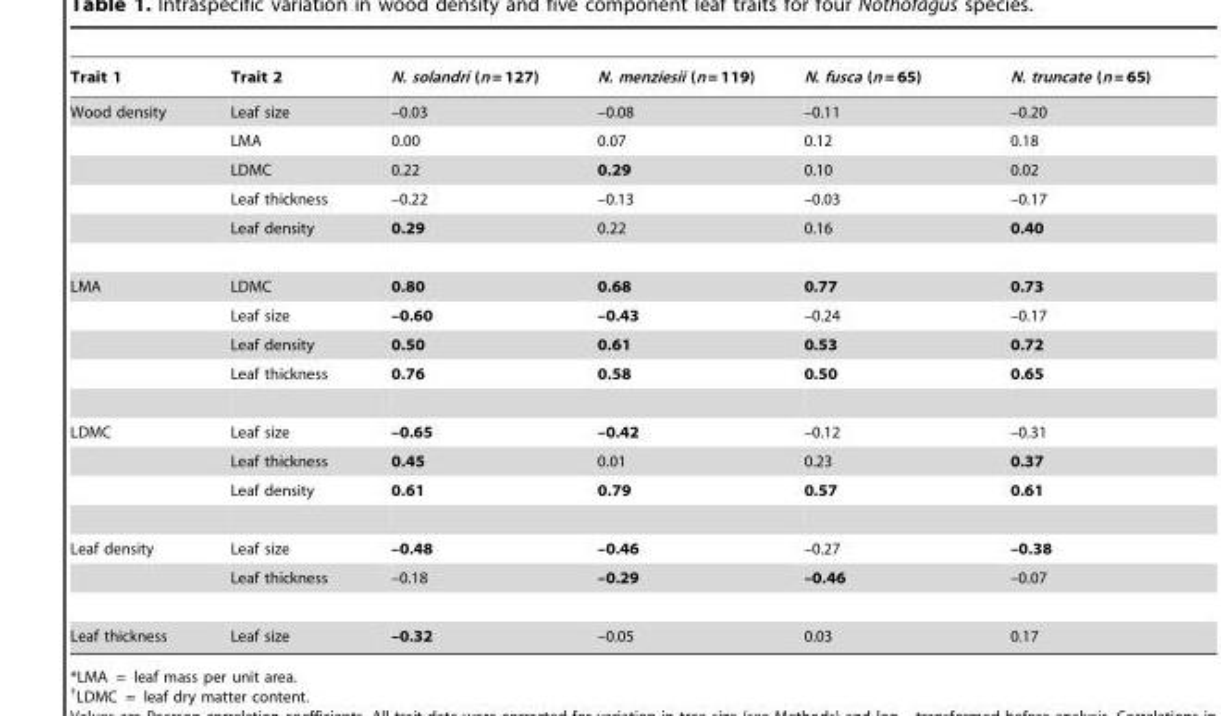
<table><thead><tr><td>Trait 1</td><td>Trait 2</td><td>N. solandri (n = 127)</td><td>N. menziesii (n = 119)</td><td>N. fusca (n = 65)</td><td>N. truncate (n = 65)</td></tr></thead><tbody><tr><td rowspan="5">Wood density</td><td>Leaf size</td><td>–0.03</td><td>–0.08</td><td>–0.11</td><td>–0.20</td></tr><tr><td>LMA</td><td>0.00</td><td>0.07</td><td>0.12</td><td>0.18</td></tr><tr><td>LDMC</td><td>0.22</td><td>0.29</td><td>0.10</td><td>0.02</td></tr><tr><td>Leaf thickness</td><td>–0.22</td><td>–0.13</td><td>–0.03</td><td>–0.17</td></tr><tr><td>Leaf density</td><td>0.29</td><td>0.22</td><td>0.16</td><td>0.40</td></tr><tr><td rowspan="4">LMA</td><td>LDMC</td><td>0.80</td><td>0.68</td><td>0.77</td><td>0.73</td></tr><tr><td>Leaf size</td><td>–0.60</td><td>–0.43</td><td>–0.24</td><td>–0.17</td></tr><tr><td>Leaf density</td><td>0.50</td><td>0.61</td><td>0.53</td><td>0.72</td></tr><tr><td>Leaf thickness</td><td>0.76</td><td>0.58</td><td>0.50</td><td>0.65</td></tr><tr><td rowspan="3">LDMC</td><td>Leaf size</td><td>–0.65</td><td>–0.42</td><td>–0.12</td><td>–0.31</td></tr><tr><td>Leaf thickness</td><td>0.45</td><td>0.01</td><td>0.23</td><td>0.37</td></tr><tr><td>Leaf density</td><td>0.61</td><td>0.79</td><td>0.57</td><td>0.61</td></tr><tr><td rowspan="2">Leaf density</td><td>Leaf size</td><td>–0.48</td><td>–0.46</td><td>–0.27</td><td>–0.38</td></tr><tr><td>Leaf thickness</td><td>–0.18</td><td>–0.29</td><td>–0.46</td><td>–0.07</td></tr><tr><td>Leaf thickness</td><td>Leaf size</td><td>–0.32</td><td>–0.05</td><td>0.03</td><td>0.17</td></tr></tbody></table>